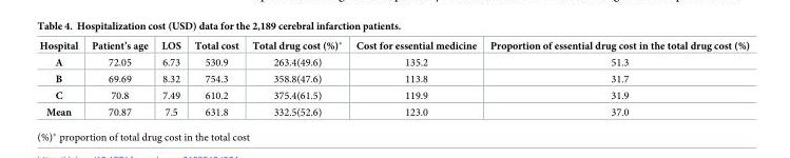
<table><thead><tr><td>Hospital</td><td>Patient’s age</td><td>LOS</td><td>Total cost</td><td>Total drug cost (%)*</td><td>Cost for essential medicine</td><td>Proportion of essential drug cost in the total drug cost (%)</td></tr></thead><tbody><tr><td>A</td><td>72.05</td><td>6.73</td><td>530.9</td><td>263.4(49.6)</td><td>135.2</td><td>51.3</td></tr><tr><td>B</td><td>69.69</td><td>8.32</td><td>754.3</td><td>358.8(47.6)</td><td>113.8</td><td>31.7</td></tr><tr><td>C</td><td>70.8</td><td>7.49</td><td>610.2</td><td>375.4(61.5)</td><td>119.9</td><td>31.9</td></tr><tr><td>Mean</td><td>70.87</td><td>7.5</td><td>631.8</td><td>332.5(52.6)</td><td>123.0</td><td>37.0</td></tr></tbody></table>